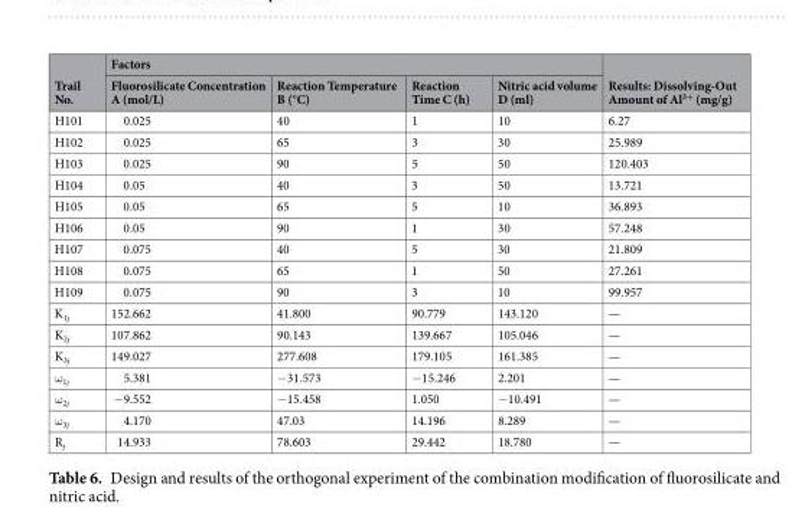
<table><thead><tr><td rowspan="2">Trail No.</td><td colspan="4">Factors</td><td rowspan="2">Results: Dissolving-Out Amount of Al<sup>3+</sup> (mg/g)</td></tr><tr><td>Fluorosilicate Concentration A (mol/L)</td><td>Reaction Temperature B (°C)</td><td>Reaction Time C (h)</td><td>Nitric acid volume D (ml)</td></tr></thead><tbody><tr><td>H101</td><td>0.025</td><td>40</td><td>1</td><td>10</td><td>6.27</td></tr><tr><td>H102</td><td>0.025</td><td>65</td><td>3</td><td>30</td><td>25.989</td></tr><tr><td>H103</td><td>0.025</td><td>90</td><td>5</td><td>50</td><td>120.403</td></tr><tr><td>H104</td><td>0.05</td><td>40</td><td>3</td><td>50</td><td>13.721</td></tr><tr><td>H105</td><td>0.05</td><td>65</td><td>5</td><td>10</td><td>36.893</td></tr><tr><td>H106</td><td>0.05</td><td>90</td><td>1</td><td>30</td><td>57.248</td></tr><tr><td>H107</td><td>0.075</td><td>40</td><td>5</td><td>30</td><td>21.809</td></tr><tr><td>H108</td><td>0.075</td><td>65</td><td>1</td><td>50</td><td>27.261</td></tr><tr><td>H109</td><td>0.075</td><td>90</td><td>3</td><td>10</td><td>99.957</td></tr><tr><td>K<sub>1j</sub></td><td>152.662</td><td>41.800</td><td>90.779</td><td>143.120</td><td>—</td></tr><tr><td>K<sub>2j</sub></td><td>107.862</td><td>90.143</td><td>139.667</td><td>105.046</td><td>—</td></tr><tr><td>K<sub>3j</sub></td><td>149.027</td><td>277.608</td><td>179.105</td><td>161.385</td><td>—</td></tr><tr><td>ω<sub>1j</sub></td><td>5.381</td><td>−31.573</td><td>−15.246</td><td>2.201</td><td>—</td></tr><tr><td>ω<sub>2j</sub></td><td>−9.552</td><td>−15.458</td><td>1.050</td><td>−10.491</td><td>—</td></tr><tr><td>ω<sub>3j</sub></td><td>4.170</td><td>47.03</td><td>14.196</td><td>8.289</td><td>—</td></tr><tr><td>R<sub>j</sub></td><td>14.933</td><td>78.603</td><td>29.442</td><td>18.780</td><td>—</td></tr></tbody></table>